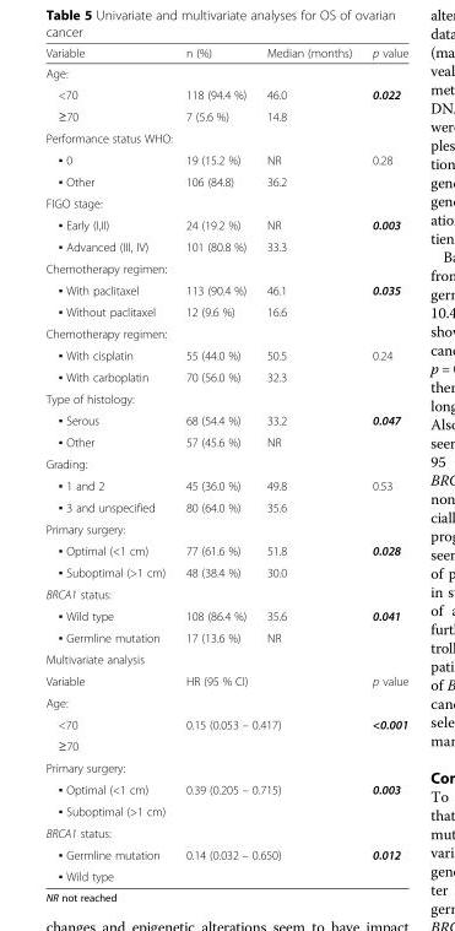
<table><thead><tr><td>Variable</td><td>n (%)</td><td>Median (months)</td><td>p value</td></tr></thead><tbody><tr><td colspan="4">Age:</td></tr><tr><td>&lt;70</td><td>118 (94.4 %)</td><td>46.0</td><td rowspan="2">0.022</td></tr><tr><td>≥70</td><td>7 (5.6 %)</td><td>14.8</td></tr><tr><td colspan="4">Performance status WHO:</td></tr><tr><td>▪ 0</td><td>19 (15.2 %)</td><td>NR</td><td>0.28</td></tr><tr><td>▪ Other</td><td>106 (84.8)</td><td>36.2</td><td></td></tr><tr><td colspan="4">FIGO stage:</td></tr><tr><td>▪ Early (I,II)</td><td>24 (19.2 %)</td><td>NR</td><td>0.003</td></tr><tr><td>▪ Advanced (III, IV)</td><td>101 (80.8 %)</td><td>33.3</td><td></td></tr><tr><td colspan="4">Chemotherapy regimen:</td></tr><tr><td>▪ With paclitaxel</td><td>113 (90.4 %)</td><td>46.1</td><td>0.035</td></tr><tr><td>▪ Without paclitaxel</td><td>12 (9.6 %)</td><td>16.6</td><td></td></tr><tr><td colspan="4">Chemotherapy regimen:</td></tr><tr><td>▪ With cisplatin</td><td>55 (44.0 %)</td><td>50.5</td><td>0.24</td></tr><tr><td>▪ With carboplatin</td><td>70 (56.0 %)</td><td>32.3</td><td></td></tr><tr><td colspan="4">Type of histology:</td></tr><tr><td>▪ Serous</td><td>68 (54.4 %)</td><td>33.2</td><td>0.047</td></tr><tr><td>▪ Other</td><td>57 (45.6 %)</td><td>NR</td><td></td></tr><tr><td colspan="4">Grading:</td></tr><tr><td>▪ 1 and 2</td><td>45 (36.0 %)</td><td>49.8</td><td>0.53</td></tr><tr><td>▪ 3 and unspecified</td><td>80 (64.0 %)</td><td>35.6</td><td></td></tr><tr><td colspan="4">Primary surgery:</td></tr><tr><td>▪ Optimal (&lt;1 cm)</td><td>77 (61.6 %)</td><td>51.8</td><td>0.028</td></tr><tr><td>▪ Suboptimal (&gt;1 cm)</td><td>48 (38.4 %)</td><td>30.0</td><td></td></tr><tr><td colspan="4">BRCA1 status:</td></tr><tr><td>▪ Wild type</td><td>108 (86.4 %)</td><td>35.6</td><td>0.041</td></tr><tr><td>▪ Germline mutation</td><td>17 (13.6 %)</td><td>NR</td><td></td></tr><tr><td colspan="4">Multivariate analysis</td></tr><tr><td>Variable</td><td colspan="2">HR (95 % CI)</td><td>p value</td></tr><tr><td colspan="4">Age:</td></tr><tr><td>&lt;70</td><td colspan="2">0.15 (0.053 – 0.417)</td><td>&lt;0.001</td></tr><tr><td colspan="4">≥70</td></tr><tr><td colspan="4">Primary surgery:</td></tr><tr><td>▪ Optimal (&lt;1 cm)</td><td colspan="2">0.39 (0.205 – 0.715)</td><td>0.003</td></tr><tr><td colspan="4">▪ Suboptimal (&gt;1 cm)</td></tr><tr><td colspan="4">BRCA1 status:</td></tr><tr><td>▪ Germline mutation</td><td colspan="2">0.14 (0.032 – 0.650)</td><td>0.012</td></tr><tr><td colspan="4">▪ Wild type</td></tr></tbody></table>